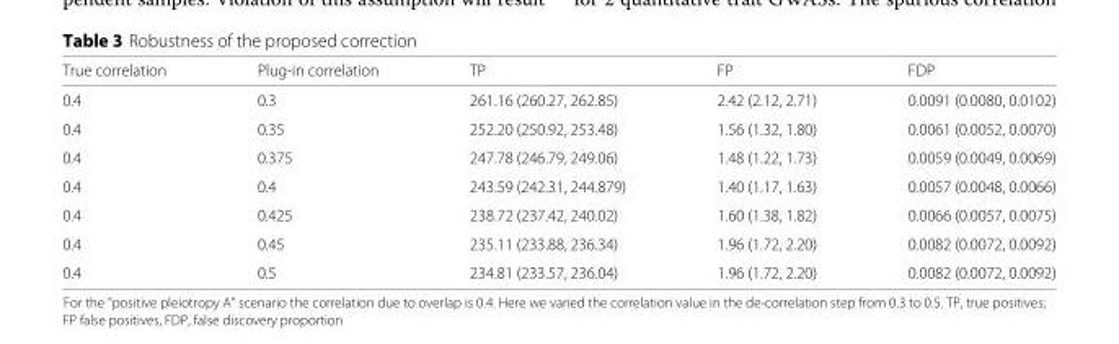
<table><thead><tr><td>True correlation</td><td>Plug-in correlation</td><td>TP</td><td>FP</td><td>FDP</td></tr></thead><tbody><tr><td>0.4</td><td>0.3</td><td>261.16 (260.27, 262.85)</td><td>2.42 (2.12, 2.71)</td><td>0.0091 (0.0080, 0.0102)</td></tr><tr><td>0.4</td><td>0.35</td><td>252.20 (250.92, 253.48)</td><td>1.56 (1.32, 1.80)</td><td>0.0061 (0.0052, 0.0070)</td></tr><tr><td>0.4</td><td>0.375</td><td>247.78 (246.79, 249.06)</td><td>1.48 (1.22, 1.73)</td><td>0.0059 (0.0049, 0.0069)</td></tr><tr><td>0.4</td><td>0.4</td><td>243.59 (242.31, 244.879)</td><td>1.40 (1.17, 1.63)</td><td>0.0057 (0.0048, 0.0066)</td></tr><tr><td>0.4</td><td>0.425</td><td>238.72 (237.42, 240.02)</td><td>1.60 (1.38, 1.82)</td><td>0.0066 (0.0057, 0.0075)</td></tr><tr><td>0.4</td><td>0.45</td><td>235.11 (233.88, 236.34)</td><td>1.96 (1.72, 2.20)</td><td>0.0082 (0.0072, 0.0092)</td></tr><tr><td>0.4</td><td>0.5</td><td>234.81 (233.57, 236.04)</td><td>1.96 (1.72, 2.20)</td><td>0.0082 (0.0072, 0.0092)</td></tr></tbody></table>